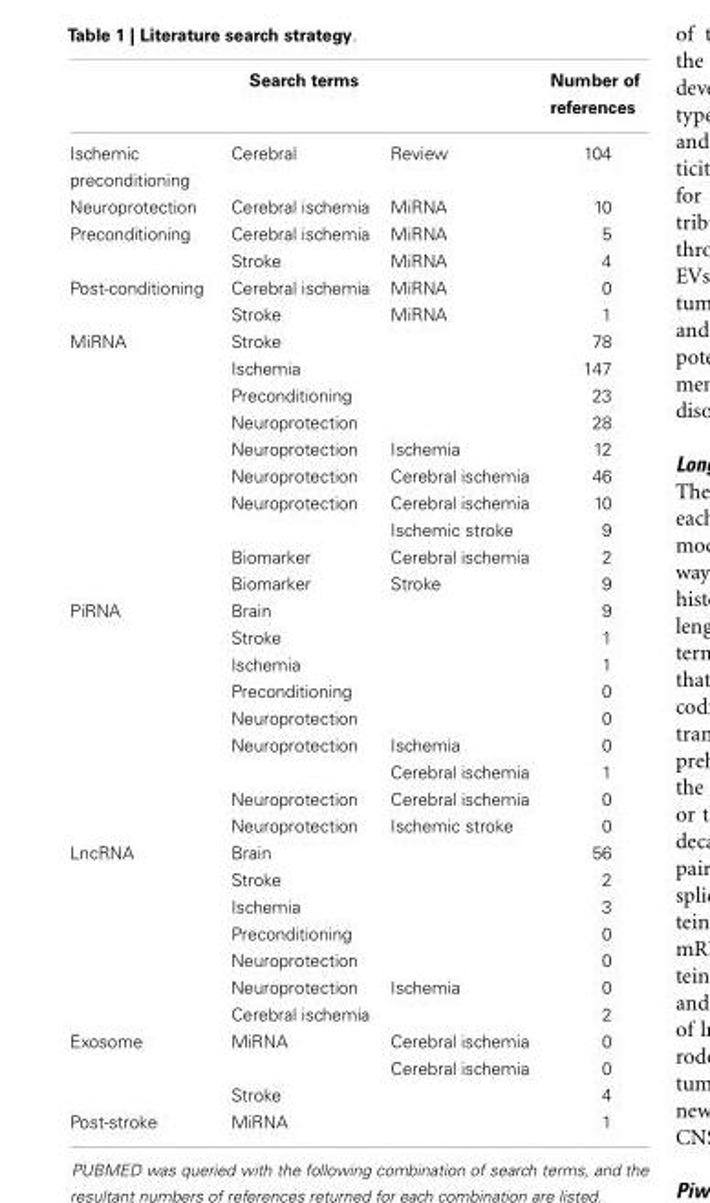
<table><thead><tr><td colspan="3">Search terms</td><td rowspan="2">Number of references 104</td></tr><tr><td>Ischemic preconditioning</td><td>Cerebral</td><td>Review</td></tr></thead><tbody><tr><td>Neuroprotection</td><td>Cerebral ischemia</td><td>MiRNA</td><td>10</td></tr><tr><td rowspan="2">Preconditioning</td><td>Cerebral ischemia</td><td>MiRNA</td><td>5</td></tr><tr><td>Stroke</td><td>MiRNA</td><td>4</td></tr><tr><td rowspan="2">Post-conditioning</td><td>Cerebral ischemia</td><td>MiRNA</td><td>0</td></tr><tr><td>Stroke</td><td>MiRNA</td><td>1</td></tr><tr><td rowspan="10">MiRNA</td><td>Stroke</td><td></td><td>78</td></tr><tr><td>Ischemia</td><td></td><td>147</td></tr><tr><td>Preconditioning</td><td></td><td>23</td></tr><tr><td>Neuroprotection</td><td></td><td>28</td></tr><tr><td>Neuroprotection</td><td>Ischemia</td><td>12</td></tr><tr><td>Neuroprotection</td><td>Cerebral ischemia</td><td>46</td></tr><tr><td>Neuroprotection</td><td>Cerebral ischemia</td><td>10</td></tr><tr><td></td><td>Ischemic stroke</td><td>9</td></tr><tr><td>Biomarker</td><td>Cerebral ischemia</td><td>2</td></tr><tr><td>Biomarker</td><td>Stroke</td><td>9</td></tr><tr><td rowspan="9">PiRNA</td><td>Brain</td><td></td><td>9</td></tr><tr><td>Stroke</td><td></td><td>1</td></tr><tr><td>Ischemia</td><td></td><td>1</td></tr><tr><td>Preconditioning</td><td></td><td>0</td></tr><tr><td>Neuroprotection</td><td></td><td>0</td></tr><tr><td>Neuroprotection</td><td>Ischemia</td><td>0</td></tr><tr><td></td><td>Cerebral ischemia</td><td>1</td></tr><tr><td>Neuroprotection</td><td>Cerebral ischemia</td><td>0</td></tr><tr><td>Neuroprotection</td><td>Ischemic stroke</td><td>0</td></tr><tr><td rowspan="7">LncRNA</td><td>Brain</td><td></td><td>56</td></tr><tr><td>Stroke</td><td></td><td>2</td></tr><tr><td>Ischemia</td><td></td><td>3</td></tr><tr><td>Preconditioning</td><td></td><td>0</td></tr><tr><td>Neuroprotection</td><td></td><td>0</td></tr><tr><td>Neuroprotection</td><td>Ischemia</td><td>0</td></tr><tr><td>Cerebral ischemia</td><td></td><td>2</td></tr><tr><td rowspan="3">Exosome</td><td>MiRNA</td><td>Cerebral ischemia</td><td>0</td></tr><tr><td></td><td>Cerebral ischemia</td><td>0</td></tr><tr><td>Stroke</td><td></td><td>4</td></tr><tr><td>Post-stroke</td><td>MiRNA</td><td></td><td>1</td></tr></tbody></table>